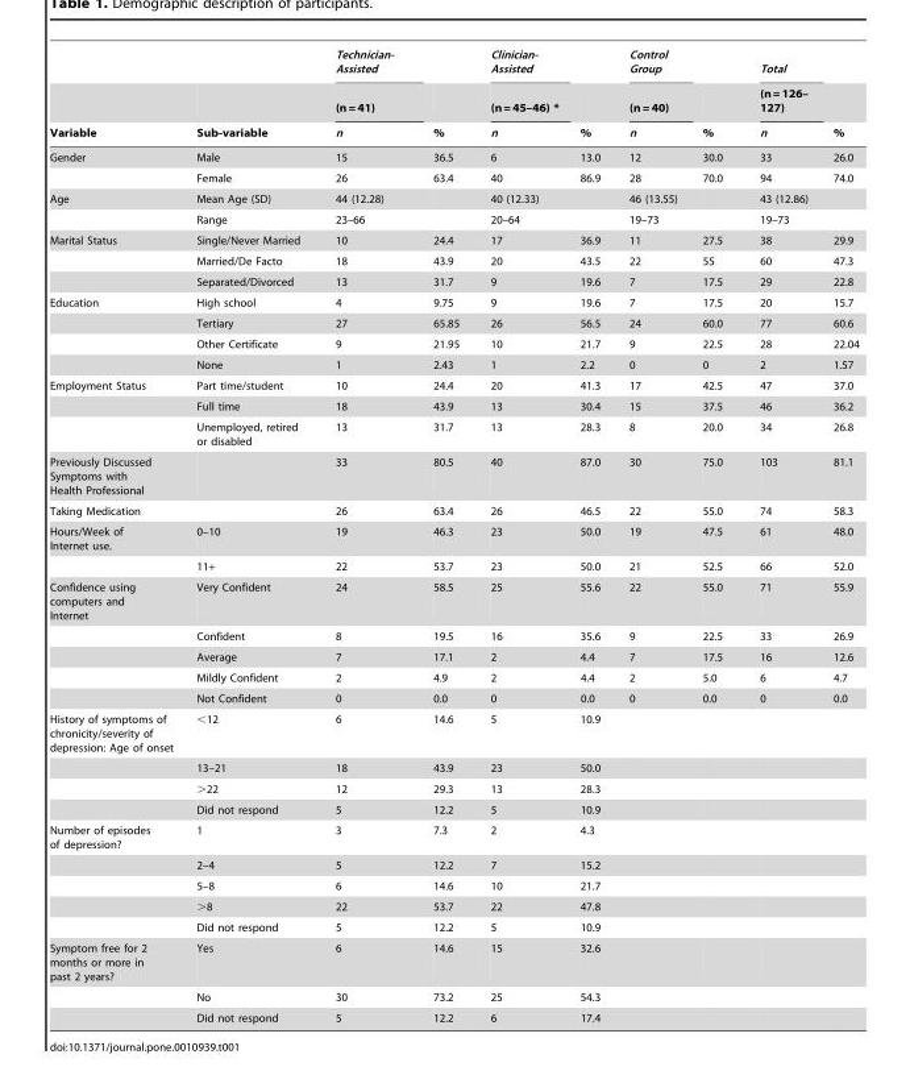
<table><thead><tr><td rowspan="3">Variable</td><td rowspan="3">Sub-variable</td><td rowspan="3">Technician- Assisted (n = 41) n</td><td rowspan="3">%</td><td rowspan="3">Clinician- Assisted (n = 45–46) * n</td><td rowspan="3">%</td><td rowspan="3">Control Group (n = 40) n</td><td rowspan="3">%</td><td rowspan="3">Total (n = 126– 127) n</td><td rowspan="3">%</td></tr><tr></tr><tr></tr></thead><tbody><tr><td rowspan="2">Gender</td><td>Male</td><td>15</td><td>36.5</td><td>6</td><td>13.0</td><td>12</td><td>30.0</td><td>33</td><td>26.0</td></tr><tr><td>Female</td><td>26</td><td>63.4</td><td>40</td><td>86.9</td><td>28</td><td>70.0</td><td>94</td><td>74.0</td></tr><tr><td rowspan="2">Age</td><td>Mean Age (SD)</td><td>44 (12.28)</td><td></td><td>40 (12.33)</td><td></td><td>46 (13.55)</td><td></td><td>43 (12.86)</td><td></td></tr><tr><td>Range</td><td>23–66</td><td></td><td>20–64</td><td></td><td>19–73</td><td></td><td>19–73</td><td></td></tr><tr><td rowspan="3">Marital Status</td><td>Single/Never Married</td><td>10</td><td>24.4</td><td>17</td><td>36.9</td><td>11</td><td>27.5</td><td>38</td><td>29.9</td></tr><tr><td>Married/De Facto</td><td>18</td><td>43.9</td><td>20</td><td>43.5</td><td>22</td><td>55</td><td>60</td><td>47.3</td></tr><tr><td>Separated/Divorced</td><td>13</td><td>31.7</td><td>9</td><td>19.6</td><td>7</td><td>17.5</td><td>29</td><td>22.8</td></tr><tr><td rowspan="4">Education</td><td>High school</td><td>4</td><td>9.75</td><td>9</td><td>19.6</td><td>7</td><td>17.5</td><td>20</td><td>15.7</td></tr><tr><td>Tertiary</td><td>27</td><td>65.85</td><td>26</td><td>56.5</td><td>24</td><td>60.0</td><td>77</td><td>60.6</td></tr><tr><td>Other Certificate</td><td>9</td><td>21.95</td><td>10</td><td>21.7</td><td>9</td><td>22.5</td><td>28</td><td>22.04</td></tr><tr><td>None</td><td>1</td><td>2.43</td><td>1</td><td>2.2</td><td>0</td><td>0</td><td>2</td><td>1.57</td></tr><tr><td rowspan="3">Employment Status</td><td>Part time/student</td><td>10</td><td>24.4</td><td>20</td><td>41.3</td><td>17</td><td>42.5</td><td>47</td><td>37.0</td></tr><tr><td>Full time</td><td>18</td><td>43.9</td><td>13</td><td>30.4</td><td>15</td><td>37.5</td><td>46</td><td>36.2</td></tr><tr><td>Unemployed, retired or disabled</td><td>13</td><td>31.7</td><td>13</td><td>28.3</td><td>8</td><td>20.0</td><td>34</td><td>26.8</td></tr><tr><td>Previously Discussed Symptoms with Health Professional</td><td></td><td>33</td><td>80.5</td><td>40</td><td>87.0</td><td>30</td><td>75.0</td><td>103</td><td>81.1</td></tr><tr><td>Taking Medication</td><td></td><td>26</td><td>63.4</td><td>26</td><td>46.5</td><td>22</td><td>55.0</td><td>74</td><td>58.3</td></tr><tr><td rowspan="2">Hours/Week of Internet use.</td><td>0–10</td><td>19</td><td>46.3</td><td>23</td><td>50.0</td><td>19</td><td>47.5</td><td>61</td><td>48.0</td></tr><tr><td>11+</td><td>22</td><td>53.7</td><td>23</td><td>50.0</td><td>21</td><td>52.5</td><td>66</td><td>52.0</td></tr><tr><td rowspan="5">Confidence using computers and Internet</td><td>Very Confident</td><td>24</td><td>58.5</td><td>25</td><td>55.6</td><td>22</td><td>55.0</td><td>71</td><td>55.9</td></tr><tr><td>Confident</td><td>8</td><td>19.5</td><td>16</td><td>35.6</td><td>9</td><td>22.5</td><td>33</td><td>26.9</td></tr><tr><td>Average</td><td>7</td><td>17.1</td><td>2</td><td>4.4</td><td>7</td><td>17.5</td><td>16</td><td>12.6</td></tr><tr><td>Mildly Confident</td><td>2</td><td>4.9</td><td>2</td><td>4.4</td><td>2</td><td>5.0</td><td>6</td><td>4.7</td></tr><tr><td>Not Confident</td><td>0</td><td>0.0</td><td>0</td><td>0.0</td><td>0</td><td>0.0</td><td>0</td><td>0.0</td></tr><tr><td rowspan="4">History of symptoms of chronicity/severity of depression: Age of onset</td><td>&lt;12</td><td>6</td><td>14.6</td><td>5</td><td>10.9</td><td></td><td></td><td></td><td></td></tr><tr><td>13–21</td><td>18</td><td>43.9</td><td>23</td><td>50.0</td><td></td><td></td><td></td><td></td></tr><tr><td>&gt;22</td><td>12</td><td>29.3</td><td>13</td><td>28.3</td><td></td><td></td><td></td><td></td></tr><tr><td>Did not respond</td><td>5</td><td>12.2</td><td>5</td><td>10.9</td><td></td><td></td><td></td><td></td></tr><tr><td rowspan="5">Number of episodes of depression?</td><td>1</td><td>3</td><td>7.3</td><td>2</td><td>4.3</td><td></td><td></td><td></td><td></td></tr><tr><td>2–4</td><td>5</td><td>12.2</td><td>7</td><td>15.2</td><td></td><td></td><td></td><td></td></tr><tr><td>5–8</td><td>6</td><td>14.6</td><td>10</td><td>21.7</td><td></td><td></td><td></td><td></td></tr><tr><td>&gt;8</td><td>22</td><td>53.7</td><td>22</td><td>47.8</td><td></td><td></td><td></td><td></td></tr><tr><td>Did not respond</td><td>5</td><td>12.2</td><td>5</td><td>10.9</td><td></td><td></td><td></td><td></td></tr><tr><td rowspan="3">Symptom free for 2 months or more in past 2 years?</td><td>Yes</td><td>6</td><td>14.6</td><td>15</td><td>32.6</td><td></td><td></td><td></td><td></td></tr><tr><td>No</td><td>30</td><td>73.2</td><td>25</td><td>54.3</td><td></td><td></td><td></td><td></td></tr><tr><td>Did not respond</td><td>5</td><td>12.2</td><td>6</td><td>17.4</td><td></td><td></td><td></td><td></td></tr></tbody></table>